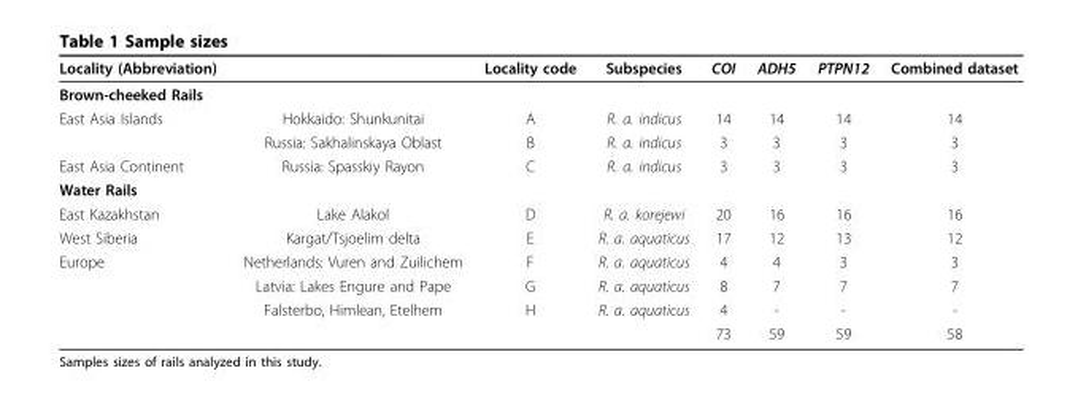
<table><thead><tr><td>Locality (Abbreviation)</td><td></td><td>Locality code</td><td>Subspecies</td><td>COI</td><td>ADH5</td><td>PTPN12</td><td>Combined dataset</td></tr></thead><tbody><tr><td colspan="8">Brown-cheeked Rails</td></tr><tr><td rowspan="2">East Asia Islands</td><td>Hokkaido: Shunkunitai</td><td>A</td><td>R. a. indicus</td><td>14</td><td>14</td><td>14</td><td>14</td></tr><tr><td>Russia: Sakhalinskaya Oblast</td><td>B</td><td>R. a. indicus</td><td>3</td><td>3</td><td>3</td><td>3</td></tr><tr><td>East Asia Continent</td><td>Russia: Spasskiy Rayon</td><td>C</td><td>R. a. indicus</td><td>3</td><td>3</td><td>3</td><td>3</td></tr><tr><td colspan="8">Water Rails</td></tr><tr><td>East Kazakhstan</td><td>Lake Alakol</td><td>D</td><td>R. a. korejewi</td><td>20</td><td>16</td><td>16</td><td>16</td></tr><tr><td>West Siberia</td><td>Kargat/Tsjoelim delta</td><td>E</td><td>R. a. aquaticus</td><td>17</td><td>12</td><td>13</td><td>12</td></tr><tr><td rowspan="4">Europe</td><td>Netherlands: Vuren and Zuilichem</td><td>F</td><td>R. a. aquaticus</td><td>4</td><td>4</td><td>3</td><td>3</td></tr><tr><td>Latvia: Lakes Engure and Pape</td><td>G</td><td>R. a. aquaticus</td><td>8</td><td>7</td><td>7</td><td>7</td></tr><tr><td>Falsterbo, Himlean, Etelhem</td><td>H</td><td>R. a. aquaticus</td><td>4</td><td>-</td><td>-</td><td>-</td></tr><tr><td></td><td></td><td></td><td>73</td><td>59</td><td>59</td><td>58</td></tr></tbody></table>